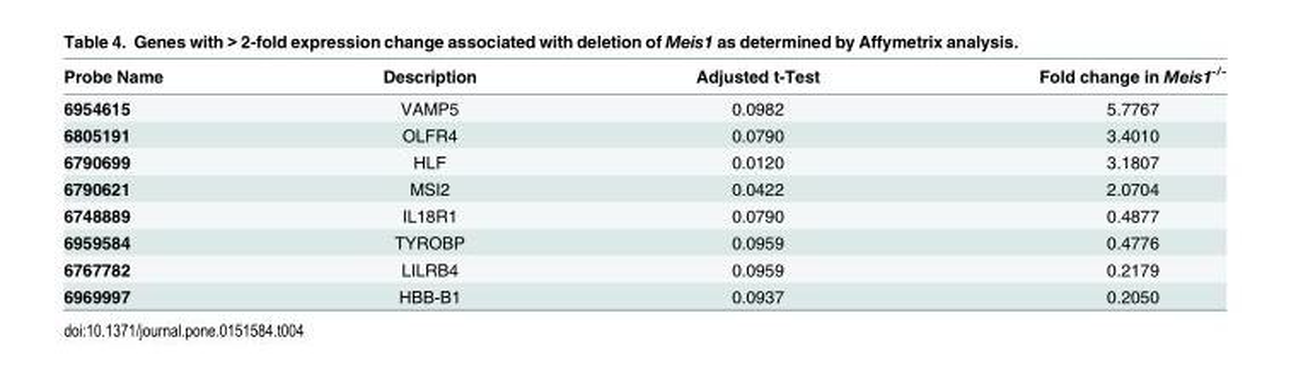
<table><thead><tr><td>Probe Name</td><td>Description</td><td>Adjusted t-Test</td><td>Fold change in Meis1<sup>-/-</sup></td></tr></thead><tbody><tr><td>6954615</td><td>VAMP5</td><td>0.0982</td><td>5.7767</td></tr><tr><td>6805191</td><td>OLFR4</td><td>0.0790</td><td>3.4010</td></tr><tr><td>6790699</td><td>HLF</td><td>0.0120</td><td>3.1807</td></tr><tr><td>6790621</td><td>MSI2</td><td>0.0422</td><td>2.0704</td></tr><tr><td>6748889</td><td>IL18R1</td><td>0.0790</td><td>0.4877</td></tr><tr><td>6959584</td><td>TYROBP</td><td>0.0959</td><td>0.4776</td></tr><tr><td>6767782</td><td>LILRB4</td><td>0.0959</td><td>0.2179</td></tr><tr><td>6969997</td><td>HBB-B1</td><td>0.0937</td><td>0.2050</td></tr></tbody></table>